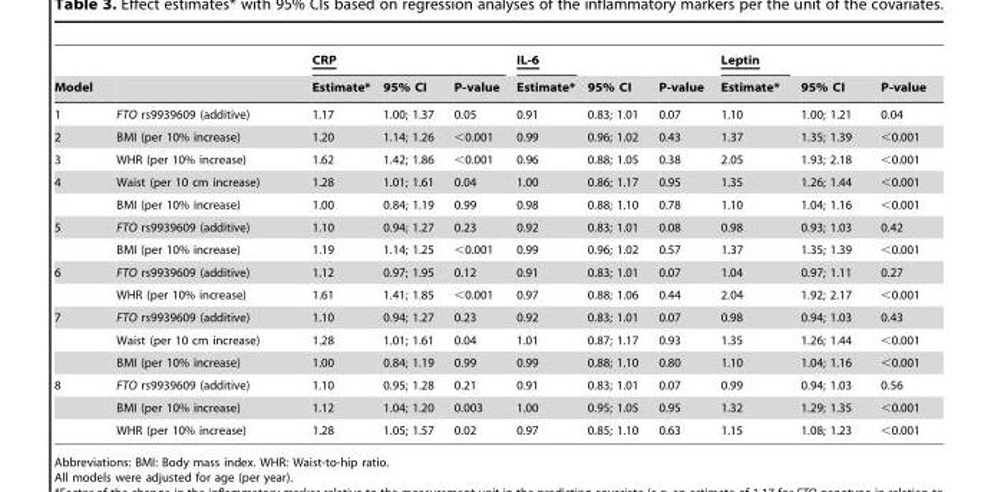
<table><thead><tr><td rowspan="2">Model</td><td rowspan="2"></td><td colspan="3">CRP</td><td rowspan="2">IL-6 Estimate*</td><td rowspan="2">95% CI</td><td rowspan="2">P-value</td><td rowspan="2">Leptin Estimate*</td><td rowspan="2">95% CI</td><td rowspan="2">P-value</td></tr><tr><td>Estimate*</td><td>95% CI</td><td>P-value</td></tr></thead><tbody><tr><td>1</td><td>FTO rs9939609 (additive)</td><td>1.17</td><td>1.00; 1.37</td><td>0.05</td><td>0.91</td><td>0.83; 1.01</td><td>0.07</td><td>1.10</td><td>1.00; 1.21</td><td>0.04</td></tr><tr><td>2</td><td>BMI (per 10% increase)</td><td>1.20</td><td>1.14; 1.26</td><td>&lt;0.001</td><td>0.99</td><td>0.96; 1.02</td><td>0.43</td><td>1.37</td><td>1.35; 1.39</td><td>&lt;0.001</td></tr><tr><td>3</td><td>WHR (per 10% increase)</td><td>1.62</td><td>1.42; 1.86</td><td>&lt;0.001</td><td>0.96</td><td>0.88; 1.05</td><td>0.38</td><td>2.05</td><td>1.93; 2.18</td><td>&lt;0.001</td></tr><tr><td rowspan="2">4</td><td>Waist (per 10 cm increase)</td><td>1.28</td><td>1.01; 1.61</td><td>0.04</td><td>1.00</td><td>0.86; 1.17</td><td>0.95</td><td>1.35</td><td>1.26; 1.44</td><td>&lt;0.001</td></tr><tr><td>BMI (per 10% increase)</td><td>1.00</td><td>0.84; 1.19</td><td>0.99</td><td>0.98</td><td>0.88; 1.10</td><td>0.78</td><td>1.10</td><td>1.04; 1.16</td><td>&lt;0.001</td></tr><tr><td rowspan="2">5</td><td>FTO rs9939609 (additive)</td><td>1.10</td><td>0.94; 1.27</td><td>0.23</td><td>0.92</td><td>0.83; 1.01</td><td>0.08</td><td>0.98</td><td>0.93; 1.03</td><td>0.42</td></tr><tr><td>BMI (per 10% increase)</td><td>1.19</td><td>1.14; 1.25</td><td>&lt;0.001</td><td>0.99</td><td>0.96; 1.02</td><td>0.57</td><td>1.37</td><td>1.35; 1.39</td><td>&lt;0.001</td></tr><tr><td rowspan="2">6</td><td>FTO rs9939609 (additive)</td><td>1.12</td><td>0.97; 1.95</td><td>0.12</td><td>0.91</td><td>0.83; 1.01</td><td>0.07</td><td>1.04</td><td>0.97; 1.11</td><td>0.27</td></tr><tr><td>WHR (per 10% increase)</td><td>1.61</td><td>1.41; 1.85</td><td>&lt;0.001</td><td>0.97</td><td>0.88; 1.06</td><td>0.44</td><td>2.04</td><td>1.92; 2.17</td><td>&lt;0.001</td></tr><tr><td rowspan="3">7</td><td>FTO rs9939609 (additive)</td><td>1.10</td><td>0.94; 1.27</td><td>0.23</td><td>0.92</td><td>0.83; 1.01</td><td>0.07</td><td>0.98</td><td>0.94; 1.03</td><td>0.43</td></tr><tr><td>Waist (per 10 cm increase)</td><td>1.28</td><td>1.01; 1.61</td><td>0.04</td><td>1.01</td><td>0.87; 1.17</td><td>0.93</td><td>1.35</td><td>1.26; 1.44</td><td>&lt;0.001</td></tr><tr><td>BMI (per 10% increase)</td><td>1.00</td><td>0.84; 1.19</td><td>0.99</td><td>0.99</td><td>0.88; 1.10</td><td>0.80</td><td>1.10</td><td>1.04; 1.16</td><td>&lt;0.001</td></tr><tr><td rowspan="3">8</td><td>FTO rs9939609 (additive)</td><td>1.10</td><td>0.95; 1.28</td><td>0.21</td><td>0.91</td><td>0.83; 1.01</td><td>0.07</td><td>0.99</td><td>0.94; 1.03</td><td>0.56</td></tr><tr><td>BMI (per 10% increase)</td><td>1.12</td><td>1.04; 1.20</td><td>0.003</td><td>1.00</td><td>0.95; 1.05</td><td>0.95</td><td>1.32</td><td>1.29; 1.35</td><td>&lt;0.001</td></tr><tr><td>WHR (per 10% increase)</td><td>1.28</td><td>1.05; 1.57</td><td>0.02</td><td>0.97</td><td>0.85; 1.10</td><td>0.63</td><td>1.15</td><td>1.08; 1.23</td><td>&lt;0.001</td></tr></tbody></table>